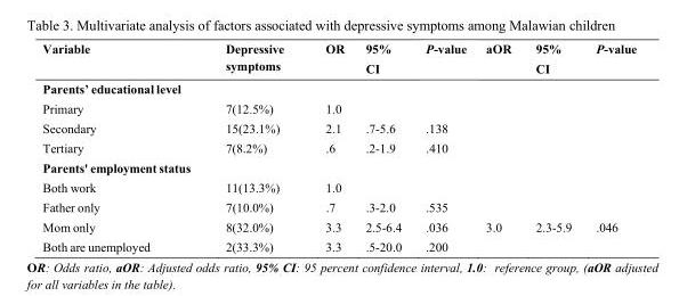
<table><thead><tr><td>Variable</td><td>Depressive symptoms</td><td>OR</td><td>95% CI</td><td>P-value</td><td>aOR</td><td>95% CI</td><td>P-value</td></tr></thead><tbody><tr><td colspan="8">Parents’ educational level</td></tr><tr><td>Primary</td><td>7(12.5%)</td><td>1.0</td><td></td><td></td><td></td><td></td><td></td></tr><tr><td>Secondary</td><td>15(23.1%)</td><td>2.1</td><td>.7-5.6</td><td>.138</td><td></td><td></td><td></td></tr><tr><td>Tertiary</td><td>7(8.2%)</td><td>.6</td><td>.2-1.9</td><td>.410</td><td></td><td></td><td></td></tr><tr><td colspan="8">Parents&#x27; employment status</td></tr><tr><td>Both work</td><td>11(13.3%)</td><td>1.0</td><td></td><td></td><td></td><td></td><td></td></tr><tr><td>Father only</td><td>7(10.0%)</td><td>.7</td><td>.3-2.0</td><td>.535</td><td></td><td></td><td></td></tr><tr><td>Mom only</td><td>8(32.0%)</td><td>3.3</td><td>2.5-6.4</td><td>.036</td><td>3.0</td><td>2.3-5.9</td><td>.046</td></tr><tr><td>Both are unemployed</td><td>2(33.3%)</td><td>3.3</td><td>.5-20.0</td><td>.200</td><td></td><td></td><td></td></tr></tbody></table>